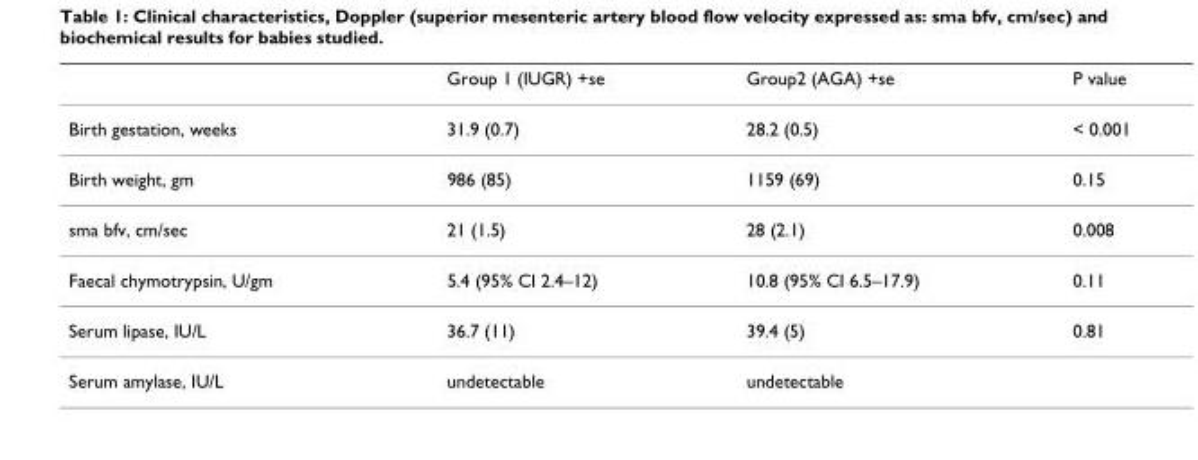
<table><thead><tr><td></td><td>Group 1 (IUGR) +se</td><td>Group2 (AGA) +se</td><td>P value</td></tr></thead><tbody><tr><td>Birth gestation, weeks</td><td>31.9 (0.7)</td><td>28.2 (0.5)</td><td>&lt; 0.001</td></tr><tr><td>Birth weight, gm</td><td>986 (85)</td><td>1159 (69)</td><td>0.15</td></tr><tr><td>sma bfv, cm/sec</td><td>21 (1.5)</td><td>28 (2.1)</td><td>0.008</td></tr><tr><td>Faecal chymotrypsin, U/gm</td><td>5.4 (95% CI 2.4–12)</td><td>10.8 (95% CI 6.5–17.9)</td><td>0.11</td></tr><tr><td>Serum lipase, IU/L</td><td>36.7 (11)</td><td>39.4 (5)</td><td>0.81</td></tr><tr><td>Serum amylase, IU/L</td><td>undetectable</td><td>undetectable</td><td></td></tr></tbody></table>